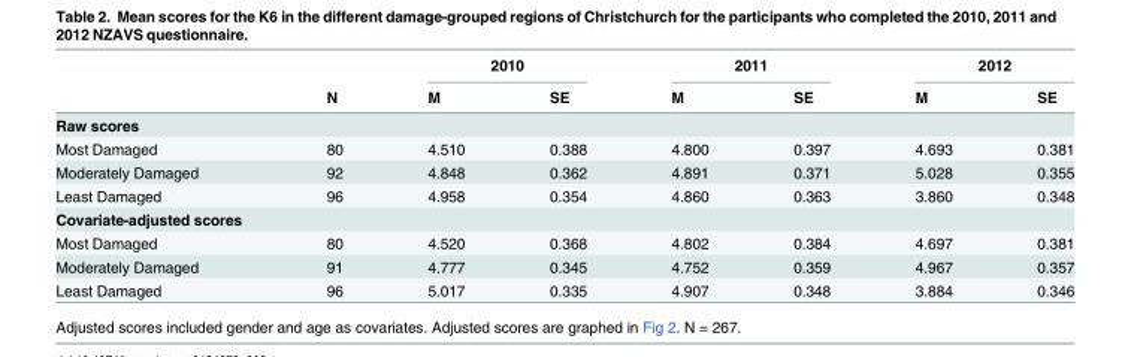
<table><thead><tr><td rowspan="2"></td><td rowspan="2">N</td><td colspan="2">2010</td><td colspan="2">2011</td><td colspan="2">2012</td></tr><tr><td>M</td><td>SE</td><td>M</td><td>SE</td><td>M</td><td>SE</td></tr></thead><tbody><tr><td colspan="8">Raw scores</td></tr><tr><td>Most Damaged</td><td>80</td><td>4.510</td><td>0.388</td><td>4.800</td><td>0.397</td><td>4.693</td><td>0.381</td></tr><tr><td>Moderately Damaged</td><td>92</td><td>4.848</td><td>0.362</td><td>4.891</td><td>0.371</td><td>5.028</td><td>0.355</td></tr><tr><td>Least Damaged</td><td>96</td><td>4.958</td><td>0.354</td><td>4.860</td><td>0.363</td><td>3.860</td><td>0.348</td></tr><tr><td colspan="8">Covariate-adjusted scores</td></tr><tr><td>Most Damaged</td><td>80</td><td>4.520</td><td>0.368</td><td>4.802</td><td>0.384</td><td>4.697</td><td>0.381</td></tr><tr><td>Moderately Damaged</td><td>91</td><td>4.777</td><td>0.345</td><td>4.752</td><td>0.359</td><td>4.967</td><td>0.357</td></tr><tr><td>Least Damaged</td><td>96</td><td>5.017</td><td>0.335</td><td>4.907</td><td>0.348</td><td>3.884</td><td>0.346</td></tr></tbody></table>